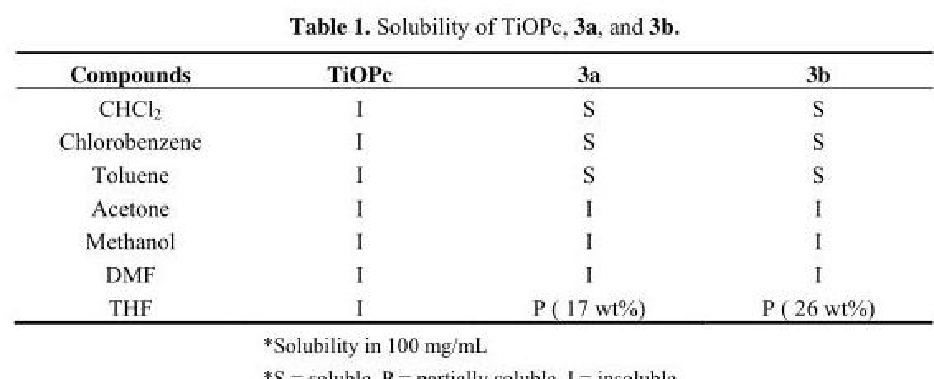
<table><thead><tr><td>Compounds</td><td>TiOPc</td><td>3a</td><td>3b</td></tr></thead><tbody><tr><td>CHCl<sub>2</sub></td><td>I</td><td>S</td><td>S</td></tr><tr><td>Chlorobenzene</td><td>I</td><td>S</td><td>S</td></tr><tr><td>Toluene</td><td>I</td><td>S</td><td>S</td></tr><tr><td>Acetone</td><td>I</td><td>I</td><td>I</td></tr><tr><td>Methanol</td><td>I</td><td>I</td><td>I</td></tr><tr><td>DMF</td><td>I</td><td>I</td><td>I</td></tr><tr><td>THF</td><td>I</td><td>P ( 17 wt%)</td><td>P ( 26 wt%)</td></tr></tbody></table>